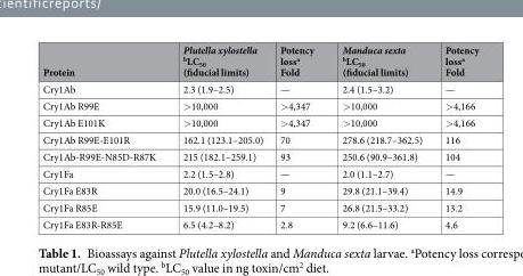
<table><thead><tr><td>Protein</td><td>Plutella xylostella <sup>b</sup>LC<sub>50</sub> (fiducial limits)</td><td>Potency loss<sup>a</sup> Fold</td><td>Manduca sexta <sup>b</sup>LC<sub>50</sub> (fiducial limits)</td><td>Potency loss<sup>a</sup> Fold</td></tr></thead><tbody><tr><td>Cry1Ab</td><td>2.3 (1.9–2.5)</td><td>—</td><td>2.4 (1.5–3.2)</td><td>—</td></tr><tr><td>Cry1Ab R99E</td><td>&gt;10,000</td><td>&gt;4,347</td><td>&gt;10,000</td><td>&gt;4,166</td></tr><tr><td>Cry1Ab E101K</td><td>&gt;10,000</td><td>&gt;4,347</td><td>&gt;10,000</td><td>&gt;4,166</td></tr><tr><td>Cry1Ab R99E-E101R</td><td>162.1 (123.1–205.0)</td><td>70</td><td>278.6 (218.7–362.5)</td><td>116</td></tr><tr><td>Cry1Ab-R99E-N85D-R87K</td><td>215 (182.1–259.1)</td><td>93</td><td>250.6 (90.9–361.8)</td><td>104</td></tr><tr><td>Cry1Fa</td><td>2.2 (1.5–2.8)</td><td>—</td><td>2.0 (1.1–2.7)</td><td>—</td></tr><tr><td>Cry1Fa E83R</td><td>20.0 (16.5–24.1)</td><td>9</td><td>29.8 (21.1–39.4)</td><td>14.9</td></tr><tr><td>Cry1Fa R85E</td><td>15.9 (11.0–19.5)</td><td>7</td><td>26.8 (21.5–33.2)</td><td>13.2</td></tr><tr><td>Cry1Fa E83R-R85E</td><td>6.5 (4.2–8.2)</td><td>2.8</td><td>9.2 (6.6–11.6)</td><td>4.6</td></tr></tbody></table>